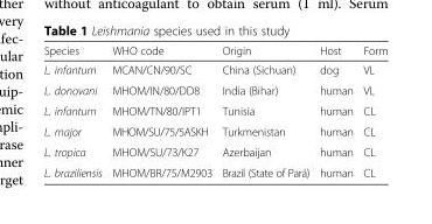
<table><thead><tr><td>Species</td><td>WHO code</td><td>Origin</td><td>Host</td><td>Form</td></tr></thead><tbody><tr><td>L. infantum</td><td>MCAN/CN/90/SC</td><td>China (Sichuan)</td><td>dog</td><td>VL</td></tr><tr><td>L. donovani</td><td>MHOM/IN/80/DD8</td><td>India (Bihar)</td><td>human</td><td>VL</td></tr><tr><td>L. infantum</td><td>MHOM/TN/80/IPT1</td><td>Tunisia</td><td>human</td><td>CL</td></tr><tr><td>L. major</td><td>MHOM/SU/75/5ASKH</td><td>Turkmenistan</td><td>human</td><td>CL</td></tr><tr><td>L. tropica</td><td>MHOM/SU/73/K27</td><td>Azerbaijan</td><td>human</td><td>CL</td></tr><tr><td>L. braziliensis</td><td>MHOM/BR/75/M2903</td><td>Brazil (State of Pará)</td><td>human</td><td>CL</td></tr></tbody></table>